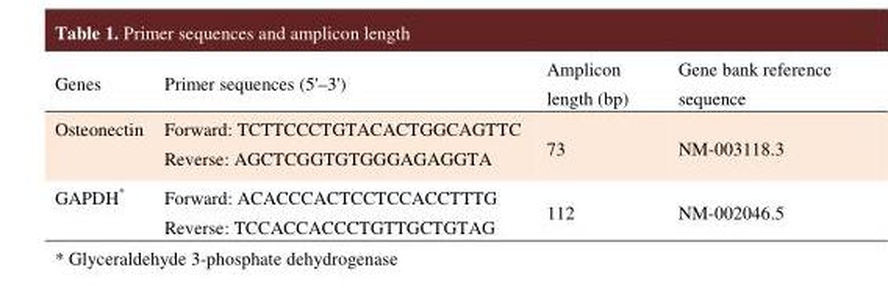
<table><thead><tr><td>Genes</td><td>Primer sequences (5&#x27;–3&#x27;)</td><td>Amplicon length (bp)</td><td>Gene bank reference sequence</td></tr></thead><tbody><tr><td>Osteonectin</td><td>Forward: TCTTCCCTGTACACTGGCAGTTC Reverse: AGCTCGGTGTGGGAGAGGTA</td><td>73</td><td>NM-003118.3</td></tr><tr><td>GAPDH*</td><td>Forward: ACACCCACTCCTCCACCTTTG Reverse: TCCACCACCCTGTTGCTGTAG</td><td>112</td><td>NM-002046.5</td></tr></tbody></table>